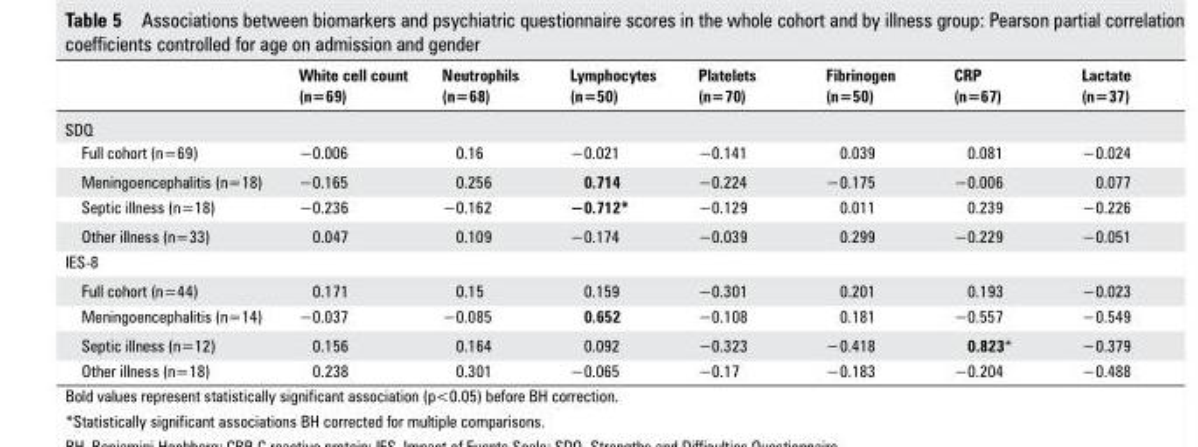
<table><thead><tr><td></td><td>White cell count (n=69)</td><td>neutrophils (n=68)</td><td>Lymphocytes (n=50)</td><td>Platelets (n=70)</td><td>Fibrinogen (n=50)</td><td>crP (n=67)</td><td>Lactate (n=37)</td></tr></thead><tbody><tr><td colspan="8">SDQ</td></tr><tr><td>Full cohort (n=69)</td><td>−0.006</td><td>0.16</td><td>−0.021</td><td>−0.141</td><td>0.039</td><td>0.081</td><td>−0.024</td></tr><tr><td>Meningoencephalitis (n=18)</td><td>−0.165</td><td>0.256</td><td>0.714</td><td>−0.224</td><td>−0.175</td><td>−0.006</td><td>0.077</td></tr><tr><td>Septic illness (n=18)</td><td>−0.236</td><td>−0.162</td><td>−0.712*</td><td>−0.129</td><td>0.011</td><td>0.239</td><td>−0.226</td></tr><tr><td>Other illness (n=33)</td><td>0.047</td><td>0.109</td><td>−0.174</td><td>−0.039</td><td>0.299</td><td>−0.229</td><td>−0.051</td></tr><tr><td colspan="8">IES-8</td></tr><tr><td>Full cohort (n=44)</td><td>0.171</td><td>0.15</td><td>0.159</td><td>−0.301</td><td>0.201</td><td>0.193</td><td>−0.023</td></tr><tr><td>Meningoencephalitis (n=14)</td><td>−0.037</td><td>−0.085</td><td>0.652</td><td>−0.108</td><td>0.181</td><td>−0.557</td><td>−0.549</td></tr><tr><td>Septic illness (n=12)</td><td>0.156</td><td>0.164</td><td>0.092</td><td>−0.323</td><td>−0.418</td><td>0.823*</td><td>−0.379</td></tr><tr><td>Other illness (n=18)</td><td>0.238</td><td>0.301</td><td>−0.065</td><td>−0.17</td><td>−0.183</td><td>−0.204</td><td>−0.488</td></tr></tbody></table>